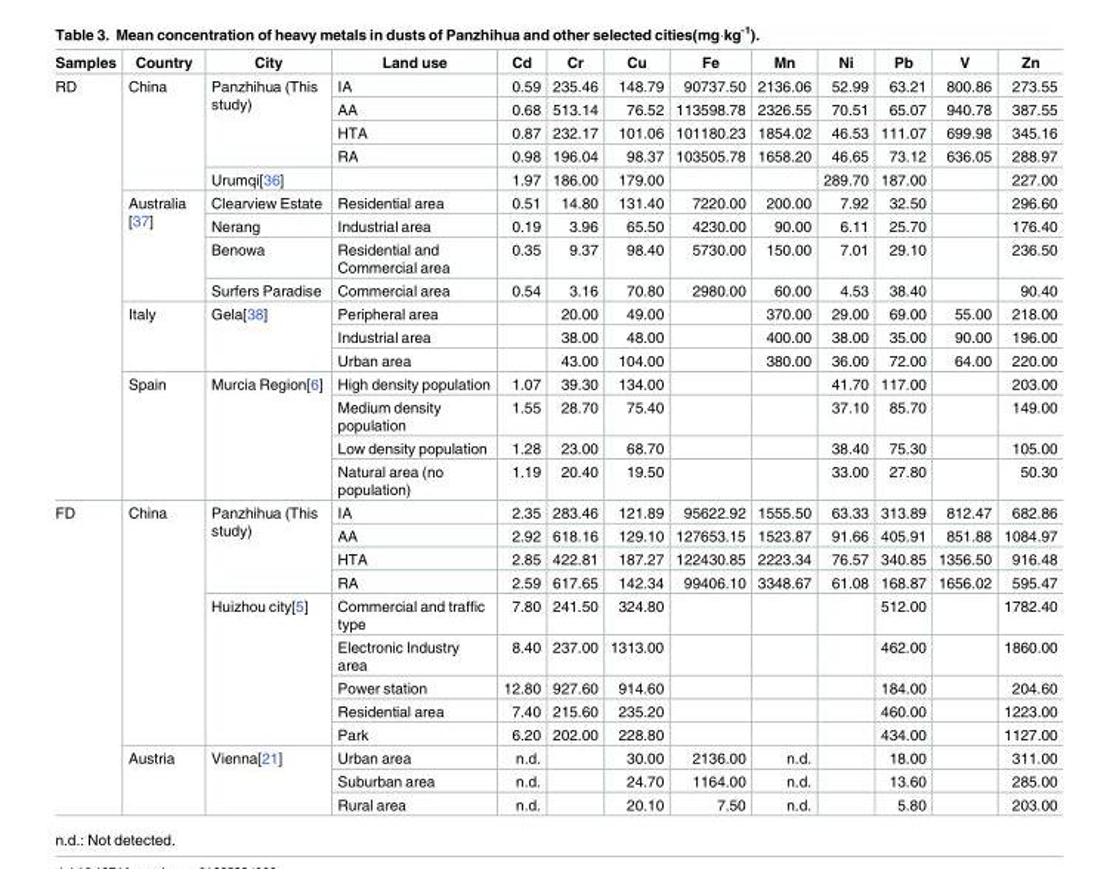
<table><thead><tr><td>Samples</td><td>Country</td><td>City</td><td>Land use</td><td>Cd</td><td>Cr</td><td>Cu</td><td>Fe</td><td>Mn</td><td>Ni</td><td>Pb</td><td>V</td><td>Zn</td></tr></thead><tbody><tr><td rowspan="16">RD</td><td rowspan="5">China</td><td rowspan="4">Panzhihua (This study)</td><td>IA</td><td>0.59</td><td>235.46</td><td>148.79</td><td>90737.50</td><td>2136.06</td><td>52.99</td><td>63.21</td><td>800.86</td><td>273.55</td></tr><tr><td>AA</td><td>0.68</td><td>513.14</td><td>76.52</td><td>113598.78</td><td>2326.55</td><td>70.51</td><td>65.07</td><td>940.78</td><td>387.55</td></tr><tr><td>HTA</td><td>0.87</td><td>232.17</td><td>101.06</td><td>101180.23</td><td>1854.02</td><td>46.53</td><td>111.07</td><td>699.98</td><td>345.16</td></tr><tr><td>RA</td><td>0.98</td><td>196.04</td><td>98.37</td><td>103505.78</td><td>1658.20</td><td>46.65</td><td>73.12</td><td>636.05</td><td>288.97</td></tr><tr><td>Urumqi[36]</td><td></td><td>1.97</td><td>186.00</td><td>179.00</td><td></td><td></td><td>289.70</td><td>187.00</td><td></td><td>227.00</td></tr><tr><td rowspan="4">Australia [37]</td><td>Clearview Estate</td><td>Residential area</td><td>0.51</td><td>14.80</td><td>131.40</td><td>7220.00</td><td>200.00</td><td>7.92</td><td>32.50</td><td></td><td>296.60</td></tr><tr><td>Nerang</td><td>Industrial area</td><td>0.19</td><td>3.96</td><td>65.50</td><td>4230.00</td><td>90.00</td><td>6.11</td><td>25.70</td><td></td><td>176.40</td></tr><tr><td>Benowa</td><td>Residential and Commercial area</td><td>0.35</td><td>9.37</td><td>98.40</td><td>5730.00</td><td>150.00</td><td>7.01</td><td>29.10</td><td></td><td>236.50</td></tr><tr><td>Surfers Paradise</td><td>Commercial area</td><td>0.54</td><td>3.16</td><td>70.80</td><td>2980.00</td><td>60.00</td><td>4.53</td><td>38.40</td><td></td><td>90.40</td></tr><tr><td rowspan="3">Italy</td><td rowspan="3">Gela[38]</td><td>Peripheral area</td><td></td><td>20.00</td><td>49.00</td><td></td><td>370.00</td><td>29.00</td><td>69.00</td><td>55.00</td><td>218.00</td></tr><tr><td>Industrial area</td><td></td><td>38.00</td><td>48.00</td><td></td><td>400.00</td><td>38.00</td><td>35.00</td><td>90.00</td><td>196.00</td></tr><tr><td>Urban area</td><td></td><td>43.00</td><td>104.00</td><td></td><td>380.00</td><td>36.00</td><td>72.00</td><td>64.00</td><td>220.00</td></tr><tr><td rowspan="4">Spain</td><td rowspan="4">Murcia Region[6]</td><td>High density population</td><td>1.07</td><td>39.30</td><td>134.00</td><td></td><td></td><td>41.70</td><td>117.00</td><td></td><td>203.00</td></tr><tr><td>Medium density population</td><td>1.55</td><td>28.70</td><td>75.40</td><td></td><td></td><td>37.10</td><td>85.70</td><td></td><td>149.00</td></tr><tr><td>Low density population</td><td>1.28</td><td>23.00</td><td>68.70</td><td></td><td></td><td>38.40</td><td>75.30</td><td></td><td>105.00</td></tr><tr><td>Natural area (no population)</td><td>1.19</td><td>20.40</td><td>19.50</td><td></td><td></td><td>33.00</td><td>27.80</td><td></td><td>50.30</td></tr><tr><td rowspan="12">FD</td><td rowspan="9">China</td><td rowspan="4">Panzhihua (This study)</td><td>IA</td><td>2.35</td><td>283.46</td><td>121.89</td><td>95622.92</td><td>1555.50</td><td>63.33</td><td>313.89</td><td>812.47</td><td>682.86</td></tr><tr><td>AA</td><td>2.92</td><td>618.16</td><td>129.10</td><td>127653.15</td><td>1523.87</td><td>91.66</td><td>405.91</td><td>851.88</td><td>1084.97</td></tr><tr><td>HTA</td><td>2.85</td><td>422.81</td><td>187.27</td><td>122430.85</td><td>2223.34</td><td>76.57</td><td>340.85</td><td>1356.50</td><td>916.48</td></tr><tr><td>RA</td><td>2.59</td><td>617.65</td><td>142.34</td><td>99406.10</td><td>3348.67</td><td>61.08</td><td>168.87</td><td>1656.02</td><td>595.47</td></tr><tr><td rowspan="5">Huizhou city[5]</td><td>Commercial and traffic type</td><td>7.80</td><td>241.50</td><td>324.80</td><td></td><td></td><td></td><td>512.00</td><td></td><td>1782.40</td></tr><tr><td>Electronic Industry area</td><td>8.40</td><td>237.00</td><td>1313.00</td><td></td><td></td><td></td><td>462.00</td><td></td><td>1860.00</td></tr><tr><td>Power station</td><td>12.80</td><td>927.60</td><td>914.60</td><td></td><td></td><td></td><td>184.00</td><td></td><td>204.60</td></tr><tr><td>Residential area</td><td>7.40</td><td>215.60</td><td>235.20</td><td></td><td></td><td></td><td>460.00</td><td></td><td>1223.00</td></tr><tr><td>Park</td><td>6.20</td><td>202.00</td><td>228.80</td><td></td><td></td><td></td><td>434.00</td><td></td><td>1127.00</td></tr><tr><td rowspan="3">Austria</td><td rowspan="3">Vienna[21]</td><td>Urban area</td><td>n.d.</td><td></td><td>30.00</td><td>2136.00</td><td>n.d.</td><td></td><td>18.00</td><td></td><td>311.00</td></tr><tr><td>Suburban area</td><td>n.d.</td><td></td><td>24.70</td><td>1164.00</td><td>n.d.</td><td></td><td>13.60</td><td></td><td>285.00</td></tr><tr><td>Rural area</td><td>n.d.</td><td></td><td>20.10</td><td>7.50</td><td>n.d.</td><td></td><td>5.80</td><td></td><td>203.00</td></tr></tbody></table>